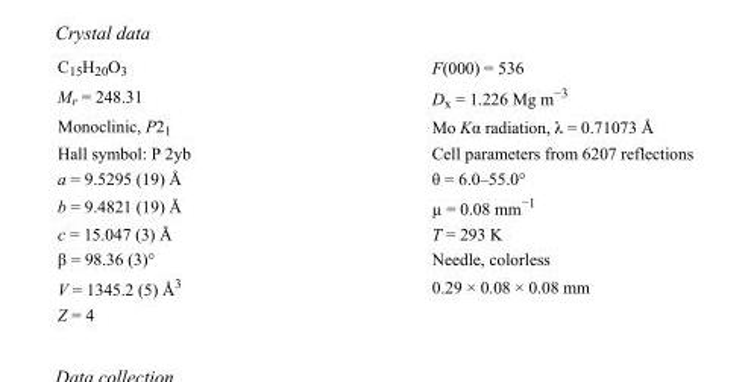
<table><tbody><tr><td>C<sub>15</sub>H<sub>20</sub>O<sub>3</sub></td><td>F(000) = 536</td></tr><tr><td>M<sub>r</sub> = 248.31</td><td>D<sub>x</sub> = 1.226 Mg m<sup>−3</sup></td></tr><tr><td>Monoclinic, P2<sub>1</sub></td><td>Mo Kα radiation, λ = 0.71073 Å</td></tr><tr><td>Hall symbol: P 2yb</td><td>Cell parameters from 6207 reflections</td></tr><tr><td>a = 9.5295 (19) Å</td><td>θ = 6.0–55.0°</td></tr><tr><td>b = 9.4821 (19) Å</td><td>µ = 0.08 mm<sup>−1</sup></td></tr><tr><td>c = 15.047 (3) Å</td><td>T = 293 K</td></tr><tr><td>β = 98.36 (3)°</td><td>Needle, colorless</td></tr><tr><td>V = 1345.2 (5) Å<sup>3</sup></td><td>0.29 × 0.08 × 0.08 mm</td></tr><tr><td>Z = 4</td><td></td></tr></tbody></table>